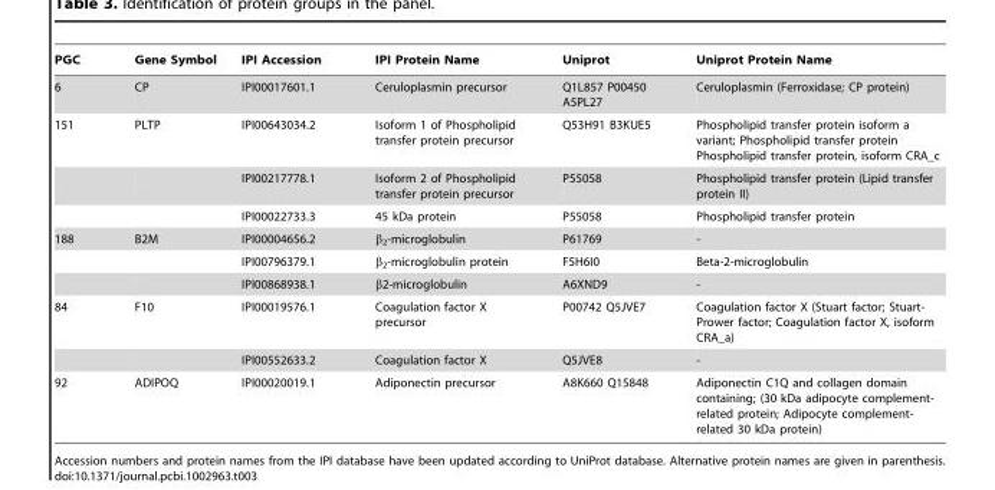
<table><thead><tr><td>PGC</td><td>Gene Symbol</td><td>IPI Accession</td><td>IPI Protein Name</td><td>Uniprot</td><td>Uniprot Protein Name</td></tr></thead><tbody><tr><td>6</td><td>CP</td><td>IPI00017601.1</td><td>Ceruloplasmin precursor</td><td>Q1L857 P00450 A5PL27</td><td>Ceruloplasmin (Ferroxidase; CP protein)</td></tr><tr><td rowspan="3">151</td><td>PLTP</td><td>IPI00643034.2</td><td>Isoform 1 of Phospholipid transfer protein precursor</td><td>Q53H91 B3KUE5</td><td>Phospholipid transfer protein isoform a variant; Phospholipid transfer protein Phospholipid transfer protein, isoform CRA_c</td></tr><tr><td></td><td>IPI00217778.1</td><td>Isoform 2 of Phospholipid transfer protein precursor</td><td>P55058</td><td>Phospholipid transfer protein (Lipid transfer protein II)</td></tr><tr><td></td><td>IPI00022733.3</td><td>45 kDa protein</td><td>P55058</td><td>Phospholipid transfer protein</td></tr><tr><td rowspan="3">188</td><td>B2M</td><td>IPI00004656.2</td><td>β<sub>2</sub>-microglobulin</td><td>P61769</td><td>-</td></tr><tr><td></td><td>IPI00796379.1</td><td>β<sub>2</sub>-microglobulin protein</td><td>F5H6I0</td><td>Beta-2-microglobulin</td></tr><tr><td></td><td>IPI00868938.1</td><td>β2-microglobulin</td><td>A6XND9</td><td>-</td></tr><tr><td rowspan="2">84</td><td>F10</td><td>IPI00019576.1</td><td>Coagulation factor X precursor</td><td>P00742 Q5JVE7</td><td>Coagulation factor X (Stuart factor; Stuart- Prower factor; Coagulation factor X, isoform CRA_a)</td></tr><tr><td></td><td>IPI00552633.2</td><td>Coagulation factor X</td><td>Q5JVE8</td><td>-</td></tr><tr><td>92</td><td>ADIPOQ</td><td>IPI00020019.1</td><td>Adiponectin precursor</td><td>A8K660 Q15848</td><td>Adiponectin C1Q and collagen domain containing; (30 kDa adipocyte complement- related protein; Adipocyte complement- related 30 kDa protein)</td></tr></tbody></table>